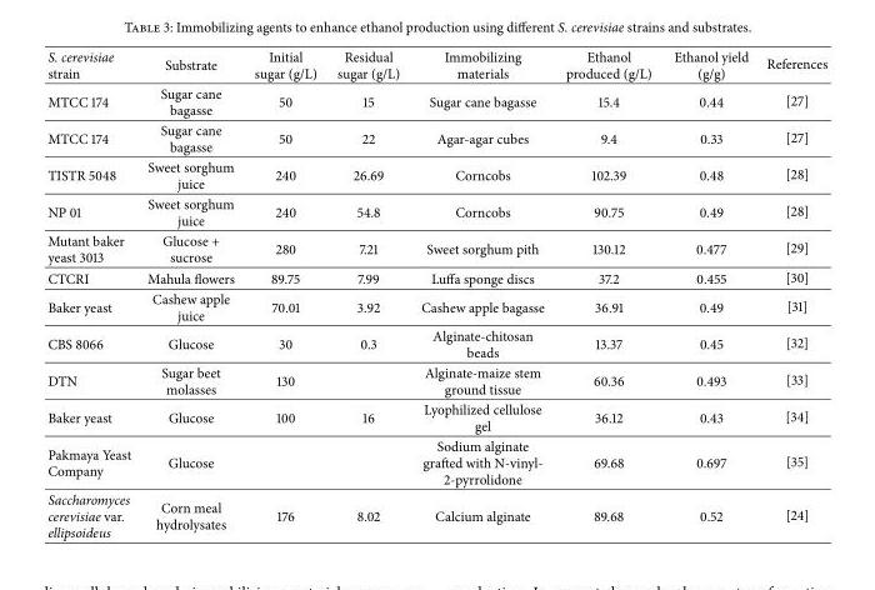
<table><thead><tr><td>S. cerevisiae strain</td><td>Substrate</td><td>Initial sugar (g/L)</td><td>Residual sugar (g/L)</td><td>Immobilizing materials</td><td>Ethanol produced (g/L)</td><td>Ethanol yield (g/g)</td><td>References</td></tr></thead><tbody><tr><td>MTCC 174</td><td>Sugar cane bagasse</td><td>50</td><td>15</td><td>Sugar cane bagasse</td><td>15.4</td><td>0.44</td><td>[27]</td></tr><tr><td>MTCC 174</td><td>Sugar cane bagasse</td><td>50</td><td>22</td><td>Agar-agar cubes</td><td>9.4</td><td>0.33</td><td>[27]</td></tr><tr><td>TISTR 5048</td><td>Sweet sorghum juice</td><td>240</td><td>26.69</td><td>Corncobs</td><td>102.39</td><td>0.48</td><td>[28]</td></tr><tr><td>NP 01</td><td>Sweet sorghum juice</td><td>240</td><td>54.8</td><td>Corncobs</td><td>90.75</td><td>0.49</td><td>[28]</td></tr><tr><td>Mutant baker yeast 3013</td><td>Glucose + sucrose</td><td>280</td><td>7.21</td><td>Sweet sorghum pith</td><td>130.12</td><td>0.477</td><td>[29]</td></tr><tr><td>CTCRI</td><td>Mahula flowers</td><td>89.75</td><td>7.99</td><td>Luffa sponge discs</td><td>37.2</td><td>0.455</td><td>[30]</td></tr><tr><td>Baker yeast</td><td>Cashew apple juice</td><td>70.01</td><td>3.92</td><td>Cashew apple bagasse</td><td>36.91</td><td>0.49</td><td>[31]</td></tr><tr><td>CBS 8066</td><td>Glucose</td><td>30</td><td>0.3</td><td>Alginate-chitosan beads</td><td>13.37</td><td>0.45</td><td>[32]</td></tr><tr><td>DTN</td><td>Sugar beet molasses</td><td>130</td><td></td><td>Alginate-maize stem ground tissue</td><td>60.36</td><td>0.493</td><td>[33]</td></tr><tr><td>Baker yeast</td><td>Glucose</td><td>100</td><td>16</td><td>Lyophilized cellulose gel</td><td>36.12</td><td>0.43</td><td>[34]</td></tr><tr><td>Pakmaya Yeast Company</td><td>Glucose</td><td></td><td></td><td>Sodium alginate grafted with N-vinyl- 2-pyrrolidone</td><td>69.68</td><td>0.697</td><td>[35]</td></tr><tr><td>Saccharomyces cerevisiae var. ellipsoideus</td><td>Corn meal hydrolysates</td><td>176</td><td>8.02</td><td>Calcium alginate</td><td>89.68</td><td>0.52</td><td>[24]</td></tr></tbody></table>